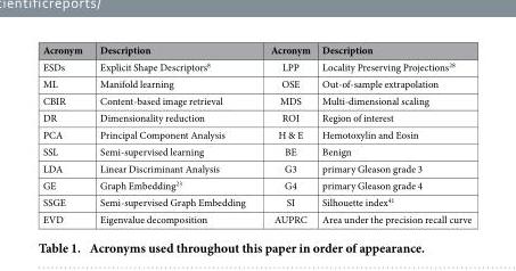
<table><thead><tr><td>Acronym</td><td>Description</td><td>Acronym</td><td>Description</td></tr></thead><tbody><tr><td>ESDs</td><td>Explicit Shape Descriptors<sup>8</sup></td><td>LPP</td><td>Locality Preserving Projections<sup>28</sup></td></tr><tr><td>ML</td><td>Manifold learning</td><td>OSE</td><td>Out-of-sample extrapolation</td></tr><tr><td>CBIR</td><td>Content-based image retrieval</td><td>MDS</td><td>Multi-dimensional scaling</td></tr><tr><td>DR</td><td>Dimensionality reduction</td><td>ROI</td><td>Region of interest</td></tr><tr><td>PCA</td><td>Principal Component Analysis</td><td>H &amp; E</td><td>Hemotoxylin and Eosin</td></tr><tr><td>SSL</td><td>Semi-supervised learning</td><td>BE</td><td>Benign</td></tr><tr><td>LDA</td><td>Linear Discriminant Analysis</td><td>G3</td><td>primary Gleason grade 3</td></tr><tr><td>GE</td><td>Graph Embedding<sup>23</sup></td><td>G4</td><td>primary Gleason grade 4</td></tr><tr><td>SSGE</td><td>Semi-supervised Graph Embedding</td><td>SI</td><td>Silhouette index<sup>41</sup></td></tr><tr><td>EVD</td><td>Eigenvalue decomposition</td><td>AUPRC</td><td>Area under the precision recall curve</td></tr></tbody></table>